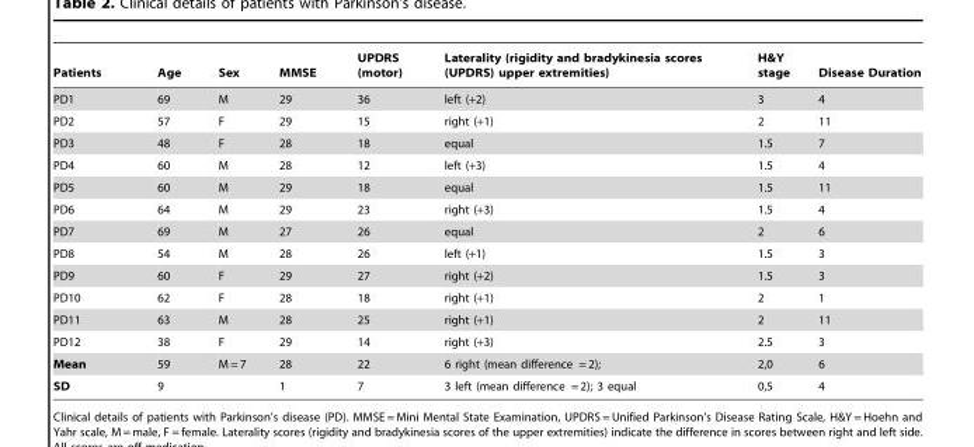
<table><thead><tr><td>Patients</td><td>Age</td><td>Sex</td><td>MMSE</td><td>UPDRS (motor)</td><td>Laterality (rigidity and bradykinesia scores (UPDRS) upper extremities)</td><td>H&amp;Y stage</td><td>Disease Duration</td></tr></thead><tbody><tr><td>PD1</td><td>69</td><td>M</td><td>29</td><td>36</td><td>left (+2)</td><td>3</td><td>4</td></tr><tr><td>PD2</td><td>57</td><td>F</td><td>29</td><td>15</td><td>right (+1)</td><td>2</td><td>11</td></tr><tr><td>PD3</td><td>48</td><td>F</td><td>28</td><td>18</td><td>equal</td><td>1.5</td><td>7</td></tr><tr><td>PD4</td><td>60</td><td>M</td><td>28</td><td>12</td><td>left (+3)</td><td>1.5</td><td>4</td></tr><tr><td>PD5</td><td>60</td><td>M</td><td>29</td><td>18</td><td>equal</td><td>1.5</td><td>11</td></tr><tr><td>PD6</td><td>64</td><td>M</td><td>29</td><td>23</td><td>right (+3)</td><td>1.5</td><td>4</td></tr><tr><td>PD7</td><td>69</td><td>M</td><td>27</td><td>26</td><td>equal</td><td>2</td><td>6</td></tr><tr><td>PD8</td><td>54</td><td>M</td><td>28</td><td>26</td><td>left (+1)</td><td>1.5</td><td>3</td></tr><tr><td>PD9</td><td>60</td><td>F</td><td>29</td><td>27</td><td>right (+2)</td><td>1.5</td><td>3</td></tr><tr><td>PD10</td><td>62</td><td>F</td><td>28</td><td>18</td><td>right (+1)</td><td>2</td><td>1</td></tr><tr><td>PD11</td><td>63</td><td>M</td><td>28</td><td>25</td><td>right (+1)</td><td>2</td><td>11</td></tr><tr><td>PD12</td><td>38</td><td>F</td><td>29</td><td>14</td><td>right (+3)</td><td>2.5</td><td>3</td></tr><tr><td>Mean</td><td>59</td><td>M = 7</td><td>28</td><td>22</td><td>6 right (mean difference = 2);</td><td>2,0</td><td>6</td></tr><tr><td>SD</td><td>9</td><td></td><td>1</td><td>7</td><td>3 left (mean difference = 2); 3 equal</td><td>0,5</td><td>4</td></tr></tbody></table>